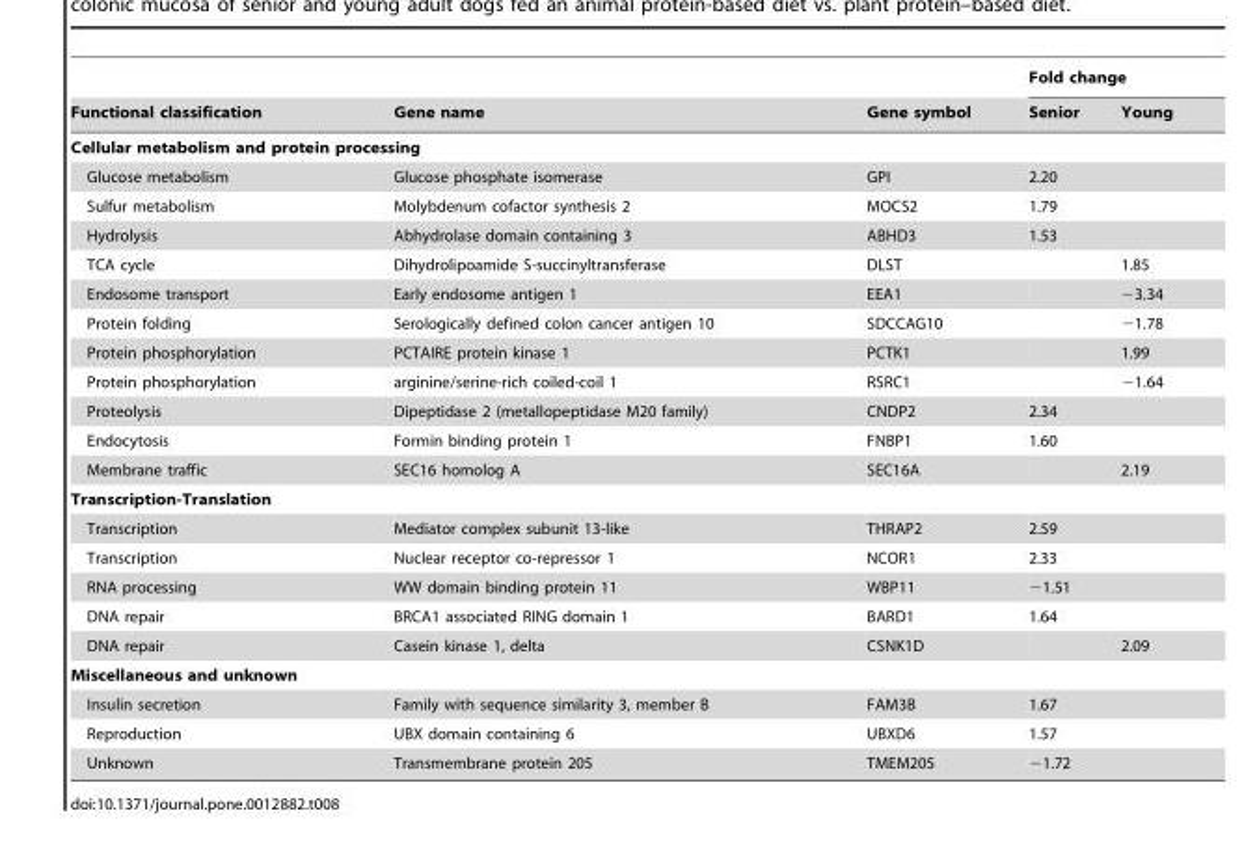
<table><thead><tr><td rowspan="2">Functional classification</td><td rowspan="2">Gene name</td><td rowspan="2">Gene symbol</td><td colspan="2">Fold change</td></tr><tr><td>Senior</td><td>Young</td></tr></thead><tbody><tr><td colspan="5">Cellular metabolism and protein processing</td></tr><tr><td>Glucose metabolism</td><td>Glucose phosphate isomerase</td><td>GPI</td><td>2.20</td><td></td></tr><tr><td>Sulfur metabolism</td><td>Molybdenum cofactor synthesis 2</td><td>MOCS2</td><td>1.79</td><td></td></tr><tr><td>Hydrolysis</td><td>Abhydrolase domain containing 3</td><td>ABHD3</td><td>1.53</td><td></td></tr><tr><td>TCA cycle</td><td>Dihydrolipoamide S-succinyltransferase</td><td>DLST</td><td></td><td>1.85</td></tr><tr><td>Endosome transport</td><td>Early endosome antigen 1</td><td>EEA1</td><td></td><td>−3.34</td></tr><tr><td>Protein folding</td><td>Serologically defined colon cancer antigen 10</td><td>SDCCAG10</td><td></td><td>−1.78</td></tr><tr><td>Protein phosphorylation</td><td>PCTAIRE protein kinase 1</td><td>PCTK1</td><td></td><td>1.99</td></tr><tr><td>Protein phosphorylation</td><td>arginine/serine-rich coiled-coil 1</td><td>RSRC1</td><td></td><td>−1.64</td></tr><tr><td>Proteolysis</td><td>Dipeptidase 2 (metallopeptidase M20 family)</td><td>CNDP2</td><td>2.34</td><td></td></tr><tr><td>Endocytosis</td><td>Formin binding protein 1</td><td>FNBP1</td><td>1.60</td><td></td></tr><tr><td>Membrane traffic</td><td>SEC16 homolog A</td><td>SEC16A</td><td></td><td>2.19</td></tr><tr><td colspan="5">Transcription-Translation</td></tr><tr><td>Transcription</td><td>Mediator complex subunit 13-like</td><td>THRAP2</td><td>2.59</td><td></td></tr><tr><td>Transcription</td><td>Nuclear receptor co-repressor 1</td><td>NCOR1</td><td>2.33</td><td></td></tr><tr><td>RNA processing</td><td>WW domain binding protein 11</td><td>WBP11</td><td>−1.51</td><td></td></tr><tr><td>DNA repair</td><td>BRCA1 associated RING domain 1</td><td>BARD1</td><td>1.64</td><td></td></tr><tr><td>DNA repair</td><td>Casein kinase 1, delta</td><td>CSNK1D</td><td></td><td>2.09</td></tr><tr><td colspan="5">Miscellaneous and unknown</td></tr><tr><td>Insulin secretion</td><td>Family with sequence similarity 3, member B</td><td>FAM3B</td><td>1.67</td><td></td></tr><tr><td>Reproduction</td><td>UBX domain containing 6</td><td>UBXD6</td><td>1.57</td><td></td></tr><tr><td>Unknown</td><td>Transmembrane protein 205</td><td>TMEM205</td><td>−1.72</td><td></td></tr></tbody></table>